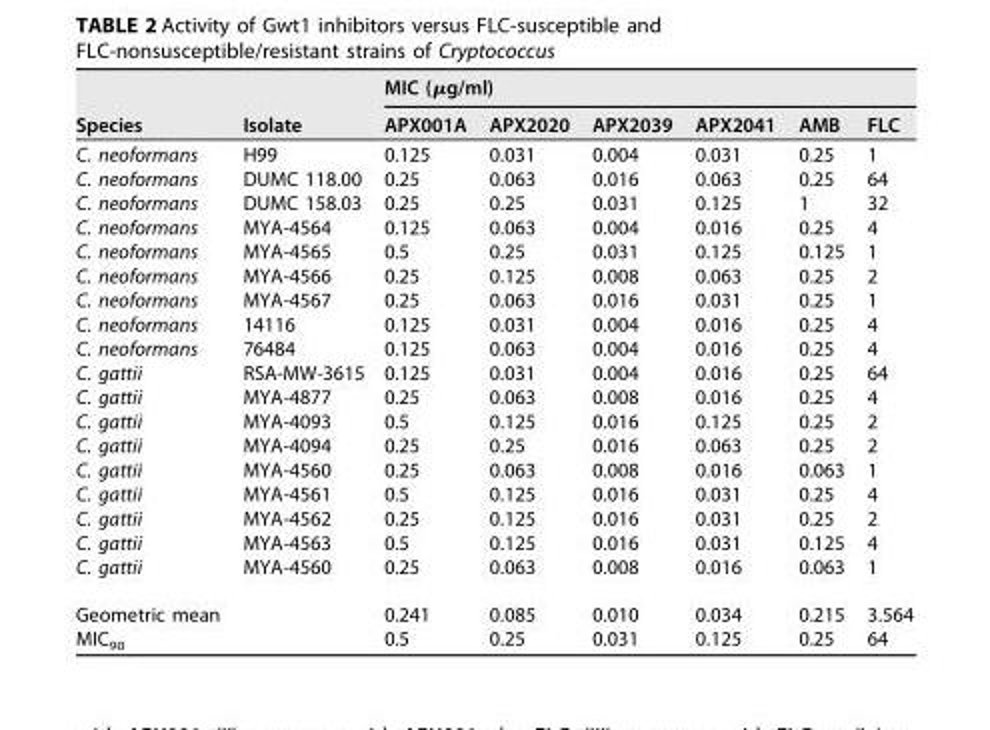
<table><thead><tr><td rowspan="2">Species</td><td rowspan="2">Isolate</td><td colspan="6">MIC (μg/ml)</td></tr><tr><td>APX001A</td><td>APX2020</td><td>APX2039</td><td>APX2041</td><td>AMB</td><td>FLC</td></tr></thead><tbody><tr><td>C. neoformans</td><td>H99</td><td>0.125</td><td>0.031</td><td>0.004</td><td>0.031</td><td>0.25</td><td>1</td></tr><tr><td>C. neoformans</td><td>DUMC 118.00</td><td>0.25</td><td>0.063</td><td>0.016</td><td>0.063</td><td>0.25</td><td>64</td></tr><tr><td>C. neoformans</td><td>DUMC 158.03</td><td>0.25</td><td>0.25</td><td>0.031</td><td>0.125</td><td>1</td><td>32</td></tr><tr><td>C. neoformans</td><td>MYA-4564</td><td>0.125</td><td>0.063</td><td>0.004</td><td>0.016</td><td>0.25</td><td>4</td></tr><tr><td>C. neoformans</td><td>MYA-4565</td><td>0.5</td><td>0.25</td><td>0.031</td><td>0.125</td><td>0.125</td><td>1</td></tr><tr><td>C. neoformans</td><td>MYA-4566</td><td>0.25</td><td>0.125</td><td>0.008</td><td>0.063</td><td>0.25</td><td>2</td></tr><tr><td>C. neoformans</td><td>MYA-4567</td><td>0.25</td><td>0.063</td><td>0.016</td><td>0.031</td><td>0.25</td><td>1</td></tr><tr><td>C. neoformans</td><td>14116</td><td>0.125</td><td>0.031</td><td>0.004</td><td>0.016</td><td>0.25</td><td>4</td></tr><tr><td>C. neoformans</td><td>76484</td><td>0.125</td><td>0.063</td><td>0.004</td><td>0.016</td><td>0.25</td><td>4</td></tr><tr><td>C. gattii</td><td>RSA-MW-3615</td><td>0.125</td><td>0.031</td><td>0.004</td><td>0.016</td><td>0.25</td><td>64</td></tr><tr><td>C. gattii</td><td>MYA-4877</td><td>0.25</td><td>0.063</td><td>0.008</td><td>0.016</td><td>0.25</td><td>4</td></tr><tr><td>C. gattii</td><td>MYA-4093</td><td>0.5</td><td>0.125</td><td>0.016</td><td>0.125</td><td>0.25</td><td>2</td></tr><tr><td>C. gattii</td><td>MYA-4094</td><td>0.25</td><td>0.25</td><td>0.016</td><td>0.063</td><td>0.25</td><td>2</td></tr><tr><td>C. gattii</td><td>MYA-4560</td><td>0.25</td><td>0.063</td><td>0.008</td><td>0.016</td><td>0.063</td><td>1</td></tr><tr><td>C. gattii</td><td>MYA-4561</td><td>0.5</td><td>0.125</td><td>0.016</td><td>0.031</td><td>0.25</td><td>4</td></tr><tr><td>C. gattii</td><td>MYA-4562</td><td>0.25</td><td>0.125</td><td>0.016</td><td>0.031</td><td>0.25</td><td>2</td></tr><tr><td>C. gattii</td><td>MYA-4563</td><td>0.5</td><td>0.125</td><td>0.016</td><td>0.031</td><td>0.125</td><td>4</td></tr><tr><td>C. gattii</td><td>MYA-4560</td><td>0.25</td><td>0.063</td><td>0.008</td><td>0.016</td><td>0.063</td><td>1</td></tr><tr><td>Geometric mean</td><td></td><td>0.241</td><td>0.085</td><td>0.010</td><td>0.034</td><td>0.215</td><td>3.564</td></tr><tr><td>MIC<sub>90</sub></td><td></td><td>0.5</td><td>0.25</td><td>0.031</td><td>0.125</td><td>0.25</td><td>64</td></tr></tbody></table>